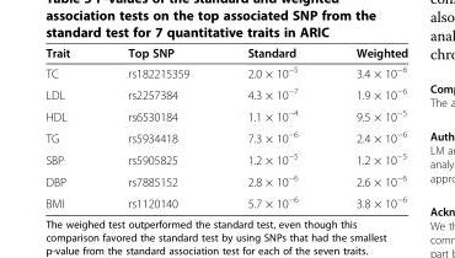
<table><thead><tr><td>Trait</td><td>Top SNP</td><td>Standard</td><td>Weighted</td></tr></thead><tbody><tr><td>TC</td><td>rs182215359</td><td>2.0 × 10<sup>−5</sup></td><td>3.4 × 10<sup>−6</sup></td></tr><tr><td>LDL</td><td>rs2257384</td><td>4.3 × 10<sup>−7</sup></td><td>1.9 × 10<sup>−6</sup></td></tr><tr><td>HDL</td><td>rs6530184</td><td>1.1 × 10<sup>−4</sup></td><td>9.5 × 10<sup>−5</sup></td></tr><tr><td>TG</td><td>rs5934418</td><td>7.3 × 10<sup>−6</sup></td><td>2.4 × 10<sup>−6</sup></td></tr><tr><td>SBP</td><td>rs5905825</td><td>1.2 × 10<sup>−5</sup></td><td>1.2 × 10<sup>−5</sup></td></tr><tr><td>DBP</td><td>rs7885152</td><td>2.8 × 10<sup>−6</sup></td><td>2.6 × 10<sup>−6</sup></td></tr><tr><td>BMI</td><td>rs1120140</td><td>5.7 × 10<sup>−6</sup></td><td>3.8 × 10<sup>−6</sup></td></tr></tbody></table>